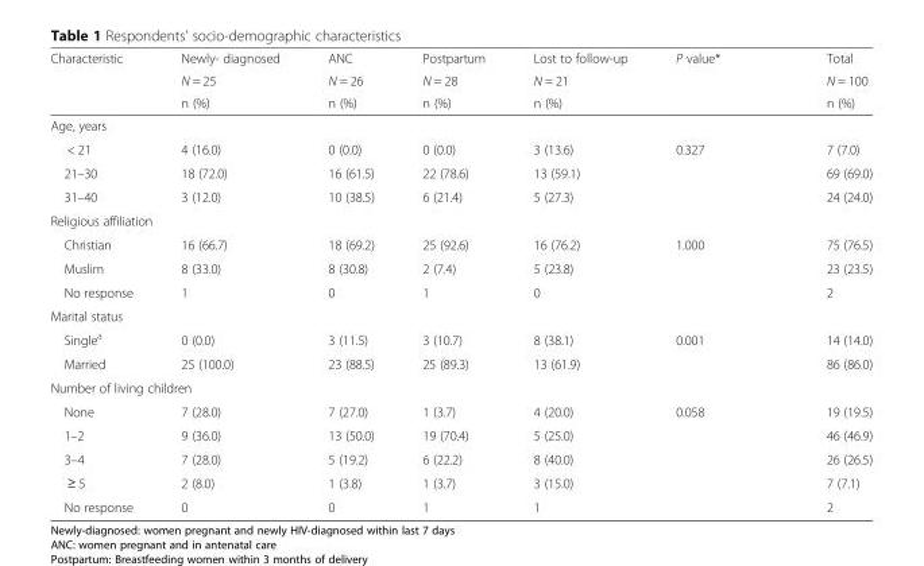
<table><thead><tr><td rowspan="3">Characteristic</td><td rowspan="3">Newly- diagnosed N = 25 n (%)</td><td rowspan="3">ANC N = 26 n (%)</td><td rowspan="3">Postpartum N = 28 n (%)</td><td rowspan="3">Lost to follow-up N = 21 n (%)</td><td rowspan="3">P value*</td><td rowspan="3">Total N = 100 n (%)</td></tr><tr></tr><tr></tr></thead><tbody><tr><td colspan="7">Age, years</td></tr><tr><td>&lt; 21</td><td>4 (16.0)</td><td>0 (0.0)</td><td>0 (0.0)</td><td>3 (13.6)</td><td rowspan="3">0.327</td><td>7 (7.0)</td></tr><tr><td>21–30</td><td>18 (72.0)</td><td>16 (61.5)</td><td>22 (78.6)</td><td>13 (59.1)</td><td>69 (69.0)</td></tr><tr><td>31–40</td><td>3 (12.0)</td><td>10 (38.5)</td><td>6 (21.4)</td><td>5 (27.3)</td><td>24 (24.0)</td></tr><tr><td colspan="7">Religious affiliation</td></tr><tr><td>Christian</td><td>16 (66.7)</td><td>18 (69.2)</td><td>25 (92.6)</td><td>16 (76.2)</td><td rowspan="3">1.000</td><td>75 (76.5)</td></tr><tr><td>Muslim</td><td>8 (33.0)</td><td>8 (30.8)</td><td>2 (7.4)</td><td>5 (23.8)</td><td>23 (23.5)</td></tr><tr><td>No response</td><td>1</td><td>0</td><td>1</td><td>0</td><td>2</td></tr><tr><td colspan="7">Marital status</td></tr><tr><td>Single<sup>a</sup></td><td>0 (0.0)</td><td>3 (11.5)</td><td>3 (10.7)</td><td>8 (38.1)</td><td rowspan="2">0.001</td><td>14 (14.0)</td></tr><tr><td>Married</td><td>25 (100.0)</td><td>23 (88.5)</td><td>25 (89.3)</td><td>13 (61.9)</td><td>86 (86.0)</td></tr><tr><td colspan="7">Number of living children</td></tr><tr><td>None</td><td>7 (28.0)</td><td>7 (27.0)</td><td>1 (3.7)</td><td>4 (20.0)</td><td rowspan="5">0.058</td><td>19 (19.5)</td></tr><tr><td>1–2</td><td>9 (36.0)</td><td>13 (50.0)</td><td>19 (70.4)</td><td>5 (25.0)</td><td>46 (46.9)</td></tr><tr><td>3–4</td><td>7 (28.0)</td><td>5 (19.2)</td><td>6 (22.2)</td><td>8 (40.0)</td><td>26 (26.5)</td></tr><tr><td>≥ 5</td><td>2 (8.0)</td><td>1 (3.8)</td><td>1 (3.7)</td><td>3 (15.0)</td><td>7 (7.1)</td></tr><tr><td>No response</td><td>0</td><td>0</td><td>1</td><td>1</td><td>2</td></tr></tbody></table>